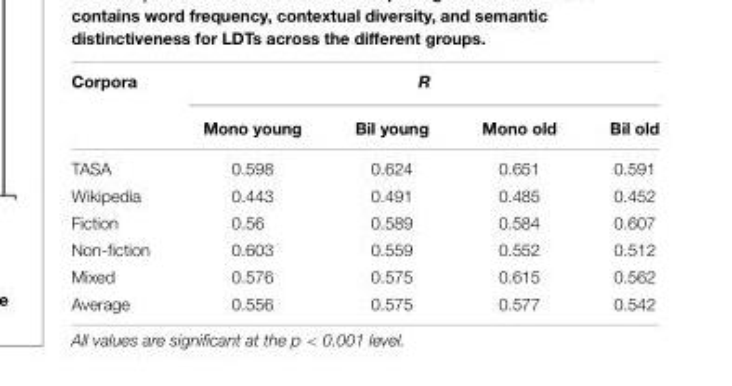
<table><thead><tr><td rowspan="2">Corpora</td><td colspan="4">R</td></tr><tr><td>Mono young</td><td>Bil young</td><td>Mono old</td><td>Bil old</td></tr></thead><tbody><tr><td>TASA</td><td>0.598</td><td>0.624</td><td>0.651</td><td>0.591</td></tr><tr><td>Wikipedia</td><td>0.443</td><td>0.491</td><td>0.485</td><td>0.452</td></tr><tr><td>Fiction</td><td>0.56</td><td>0.589</td><td>0.584</td><td>0.607</td></tr><tr><td>Non-fiction</td><td>0.603</td><td>0.559</td><td>0.552</td><td>0.512</td></tr><tr><td>Mixed</td><td>0.576</td><td>0.575</td><td>0.615</td><td>0.562</td></tr><tr><td>Average</td><td>0.556</td><td>0.575</td><td>0.577</td><td>0.542</td></tr></tbody></table>